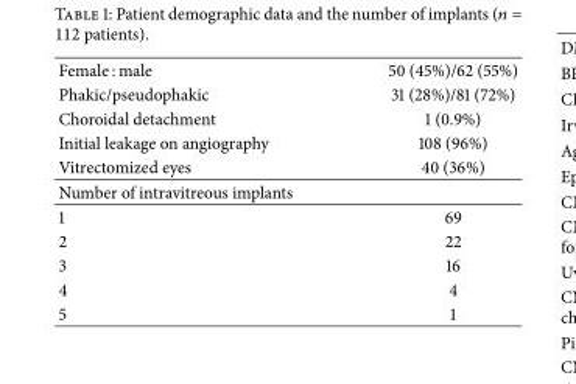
<table><tbody><tr><td>Female : male</td><td>50 (45%)/62 (55%)</td></tr><tr><td>Phakic/pseudophakic</td><td>31 (28%)/81 (72%)</td></tr><tr><td>Choroidal detachment</td><td>1 (0.9%)</td></tr><tr><td>Initial leakage on angiography</td><td>108 (96%)</td></tr><tr><td>Vitrectomized eyes</td><td>40 (36%)</td></tr><tr><td colspan="2">Number of intravitreous implants</td></tr><tr><td>1</td><td>69</td></tr><tr><td>2</td><td>22</td></tr><tr><td>3</td><td>16</td></tr><tr><td>4</td><td>4</td></tr><tr><td>5</td><td>1</td></tr></tbody></table>